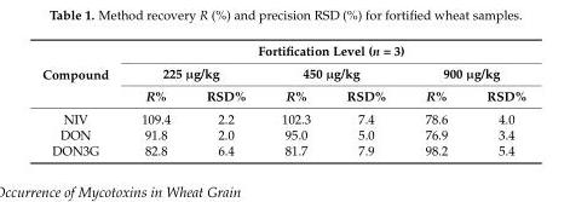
<table><thead><tr><td rowspan="3">Compound</td><td colspan="6">Fortification Level (n = 3)</td></tr><tr><td colspan="2">225 µg/kg</td><td colspan="2">450 µg/kg</td><td colspan="2">900 µg/kg</td></tr><tr><td>R%</td><td>RSD%</td><td>R%</td><td>RSD%</td><td>R%</td><td>RSD%</td></tr></thead><tbody><tr><td>NIV</td><td>109.4</td><td>2.2</td><td>102.3</td><td>7.4</td><td>78.6</td><td>4.0</td></tr><tr><td>DON</td><td>91.8</td><td>2.0</td><td>95.0</td><td>5.0</td><td>76.9</td><td>3.4</td></tr><tr><td>DON3G</td><td>82.8</td><td>6.4</td><td>81.7</td><td>7.9</td><td>98.2</td><td>5.4</td></tr></tbody></table>